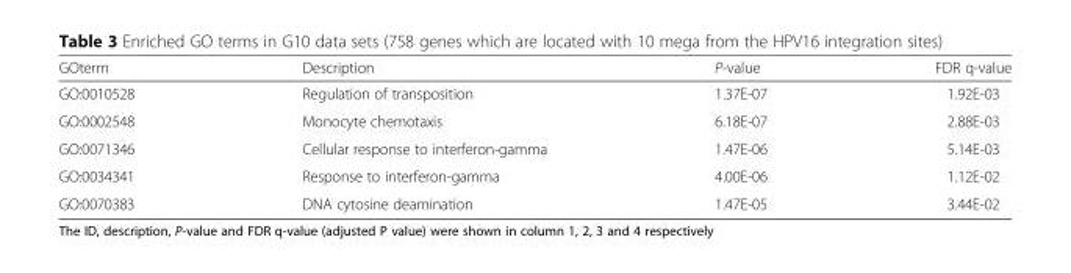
<table><thead><tr><td>GOterm</td><td>Description</td><td>P-value</td><td>FDR q-value</td></tr></thead><tbody><tr><td>GO:0010528</td><td>Regulation of transposition</td><td>1.37E-07</td><td>1.92E-03</td></tr><tr><td>GO:0002548</td><td>Monocyte chemotaxis</td><td>6.18E-07</td><td>2.88E-03</td></tr><tr><td>GO:0071346</td><td>Cellular response to interferon-gamma</td><td>1.47E-06</td><td>5.14E-03</td></tr><tr><td>GO:0034341</td><td>Response to interferon-gamma</td><td>4.00E-06</td><td>1.12E-02</td></tr><tr><td>GO:0070383</td><td>DNA cytosine deamination</td><td>1.47E-05</td><td>3.44E-02</td></tr></tbody></table>